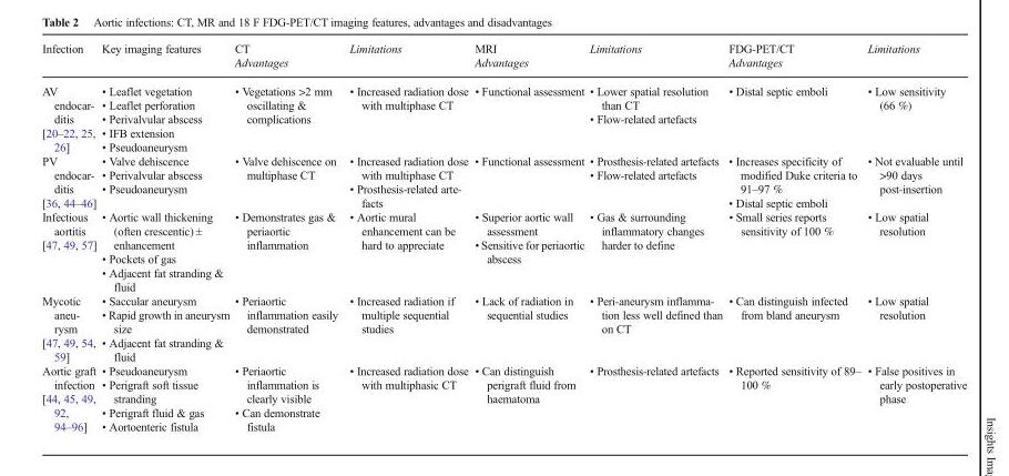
<table><thead><tr><td>Infection</td><td>Key imaging features</td><td>CT Advantages</td><td>Limitations</td><td>MRI Advantages</td><td>Limitations</td><td>FDG-PET/CT Advantages</td><td>Limitations</td></tr></thead><tbody><tr><td>AV endocar- ditis [20–22, 25, 26]</td><td>• Leaflet vegetation • Leaflet perforation • Perivalvular abscess • IFB extension • Pseudoaneurysm</td><td>• Vegetations &gt;2 mm oscillating &amp; complications</td><td>• Increased radiation dose with multiphase CT</td><td>• Functional assessment</td><td>• Lower spatial resolution than CT • Flow-related artefacts</td><td>• Distal septic emboli</td><td>• Low sensitivity (66 %)</td></tr><tr><td>PV endocar- ditis [36, 44–46]</td><td>• Valve dehiscence • Perivalvular abscess • Pseudoaneurysm</td><td>• Valve dehiscence on multiphase CT</td><td>• Increased radiation dose with multiphase CT • Prosthesis-related arte- facts</td><td>• Functional assessment</td><td>• Prosthesis-related artefacts • Flow-related artefacts</td><td>• Increases specificity of modified Duke criteria to 91–97 % • Distal septic emboli</td><td>• Not evaluable until &gt;90 days post-insertion</td></tr><tr><td>Infectious aortitis [47, 49, 57]</td><td>• Aortic wall thickening (often crescentic) ± enhancement • Pockets of gas • Adjacent fat stranding &amp; fluid</td><td>• Demonstrates gas &amp; periaortic inflammation</td><td>• Aortic mural enhancement can be hard to appreciate</td><td>• Superior aortic wall assessment • Sensitive for periaortic abscess</td><td>• Gas &amp; surrounding inflammatory changes harder to define</td><td>• Small series reports sensitivity of 100 %</td><td>• Low spatial resolution</td></tr><tr><td>Mycotic aneu- rysm [47, 49, 54, 59]</td><td>• Saccular aneurysm • Rapid growth in aneurysm size • Adjacent fat stranding &amp; fluid</td><td>• Periaortic inflammation easily demonstrated</td><td>• Increased radiation if multiple sequential studies</td><td>• Lack of radiation in sequential studies</td><td>• Peri-aneurysm inflamma- tion less well defined than on CT</td><td>• Can distinguish infected from bland aneurysm</td><td>• Low spatial resolution</td></tr><tr><td>Aortic graft infection [44, 45, 49, 92, 94–96]</td><td>• Pseudoaneurysm • Perigraft soft tissue stranding • Perigraft fluid &amp; gas • Aortoenteric fistula</td><td>• Periaortic inflammation is clearly visible • Can demonstrate fistula</td><td>• Increased radiation dose with multiphasic CT</td><td>• Can distinguish perigraft fluid from haematoma</td><td>• Prosthesis-related artefacts</td><td>• Reported sensitivity of 89– 100 %</td><td>• False positives in early postoperative phase</td></tr></tbody></table>